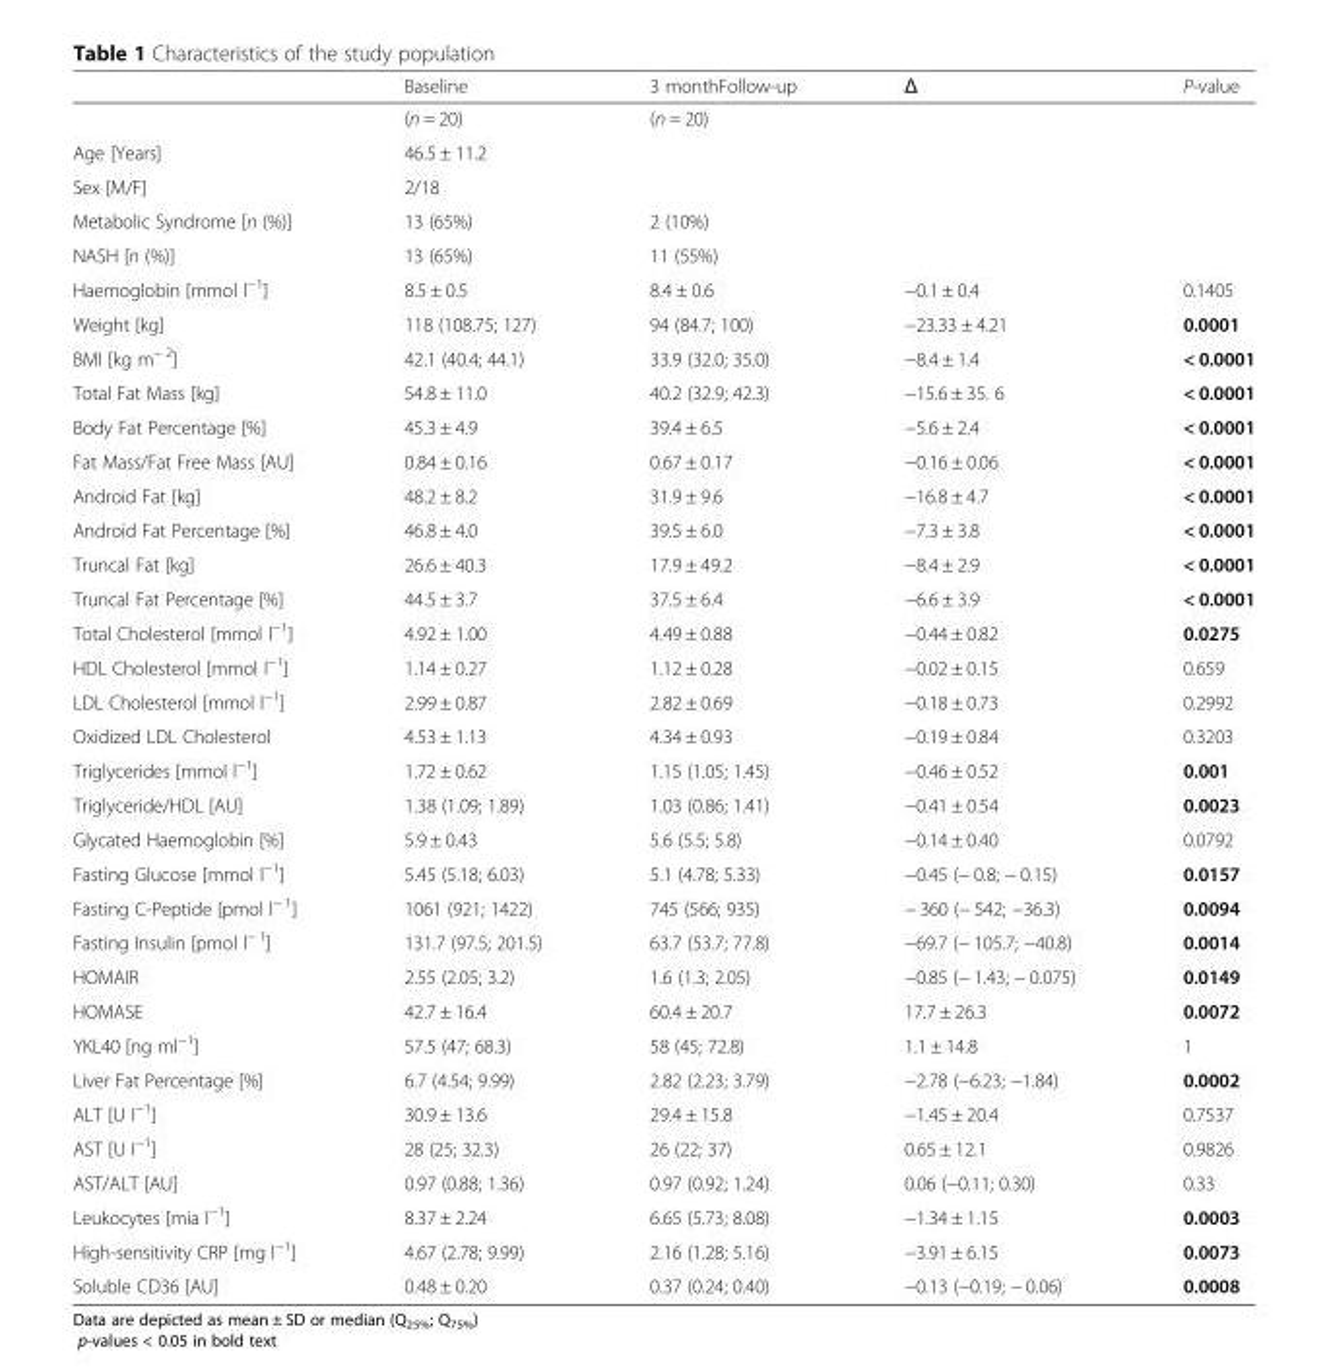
<table><thead><tr><td></td><td>Baseline</td><td>3 monthFollow-up</td><td>Δ</td><td>P-value</td></tr></thead><tbody><tr><td></td><td>(n = 20)</td><td>(n = 20)</td><td></td><td></td></tr><tr><td>Age [Years]</td><td>46.5 ± 11.2</td><td></td><td></td><td></td></tr><tr><td>Sex [M/F]</td><td>2/18</td><td></td><td></td><td></td></tr><tr><td>Metabolic Syndrome [n (%)]</td><td>13 (65%)</td><td>2 (10%)</td><td></td><td></td></tr><tr><td>NASH [n (%)]</td><td>13 (65%)</td><td>11 (55%)</td><td></td><td></td></tr><tr><td>Haemoglobin [mmol l<sup>−1</sup>]</td><td>8.5 ± 0.5</td><td>8.4 ± 0.6</td><td>−0.1 ± 0.4</td><td>0.1405</td></tr><tr><td>Weight [kg]</td><td>118 (108.75; 127)</td><td>94 (84.7; 100)</td><td>−23.33 ± 4.21</td><td>0.0001</td></tr><tr><td>BMI [kg m<sup>− 2</sup>]</td><td>42.1 (40.4; 44.1)</td><td>33.9 (32.0; 35.0)</td><td>−8.4 ± 1.4</td><td>&lt; 0.0001</td></tr><tr><td>Total Fat Mass [kg]</td><td>54.8 ± 11.0</td><td>40.2 (32.9; 42.3)</td><td>−15.6 ± 35. 6</td><td>&lt; 0.0001</td></tr><tr><td>Body Fat Percentage [%]</td><td>45.3 ± 4.9</td><td>39.4 ± 6.5</td><td>−5.6 ± 2.4</td><td>&lt; 0.0001</td></tr><tr><td>Fat Mass/Fat Free Mass [AU]</td><td>0.84 ± 0.16</td><td>0.67 ± 0.17</td><td>−0.16 ± 0.06</td><td>&lt; 0.0001</td></tr><tr><td>Android Fat [kg]</td><td>48.2 ± 8.2</td><td>31.9 ± 9.6</td><td>−16.8 ± 4.7</td><td>&lt; 0.0001</td></tr><tr><td>Android Fat Percentage [%]</td><td>46.8 ± 4.0</td><td>39.5 ± 6.0</td><td>−7.3 ± 3.8</td><td>&lt; 0.0001</td></tr><tr><td>Truncal Fat [kg]</td><td>26.6 ± 40.3</td><td>17.9 ± 49.2</td><td>−8.4 ± 2.9</td><td>&lt; 0.0001</td></tr><tr><td>Truncal Fat Percentage [%]</td><td>44.5 ± 3.7</td><td>37.5 ± 6.4</td><td>−6.6 ± 3.9</td><td>&lt; 0.0001</td></tr><tr><td>Total Cholesterol [mmol l<sup>−1</sup>]</td><td>4.92 ± 1.00</td><td>4.49 ± 0.88</td><td>−0.44 ± 0.82</td><td>0.0275</td></tr><tr><td>HDL Cholesterol [mmol l<sup>−1</sup>]</td><td>1.14 ± 0.27</td><td>1.12 ± 0.28</td><td>−0.02 ± 0.15</td><td>0.659</td></tr><tr><td>LDL Cholesterol [mmol l<sup>−1</sup>]</td><td>2.99 ± 0.87</td><td>2.82 ± 0.69</td><td>−0.18 ± 0.73</td><td>0.2992</td></tr><tr><td>Oxidized LDL Cholesterol</td><td>4.53 ± 1.13</td><td>4.34 ± 0.93</td><td>−0.19 ± 0.84</td><td>0.3203</td></tr><tr><td>Triglycerides [mmol l<sup>−1</sup>]</td><td>1.72 ± 0.62</td><td>1.15 (1.05; 1.45)</td><td>−0.46 ± 0.52</td><td>0.001</td></tr><tr><td>Triglyceride/HDL [AU]</td><td>1.38 (1.09; 1.89)</td><td>1.03 (0.86; 1.41)</td><td>−0.41 ± 0.54</td><td>0.0023</td></tr><tr><td>Glycated Haemoglobin [%]</td><td>5.9 ± 0.43</td><td>5.6 (5.5; 5.8)</td><td>−0.14 ± 0.40</td><td>0.0792</td></tr><tr><td>Fasting Glucose [mmol l<sup>−1</sup>]</td><td>5.45 (5.18; 6.03)</td><td>5.1 (4.78; 5.33)</td><td>−0.45 (− 0.8; − 0.15)</td><td>0.0157</td></tr><tr><td>Fasting C-Peptide [pmol l<sup>− 1</sup>]</td><td>1061 (921; 1422)</td><td>745 (566; 935)</td><td>− 360 (− 542; −36.3)</td><td>0.0094</td></tr><tr><td>Fasting Insulin [pmol l<sup>− 1</sup>]</td><td>131.7 (97.5; 201.5)</td><td>63.7 (53.7; 77.8)</td><td>−69.7 (− 105.7; −40.8)</td><td>0.0014</td></tr><tr><td>HOMAIR</td><td>2.55 (2.05; 3.2)</td><td>1.6 (1.3; 2.05)</td><td>−0.85 (− 1.43; − 0.075)</td><td>0.0149</td></tr><tr><td>HOMASE</td><td>42.7 ± 16.4</td><td>60.4 ± 20.7</td><td>17.7 ± 26.3</td><td>0.0072</td></tr><tr><td>YKL40 [ng ml<sup>−1</sup>]</td><td>57.5 (47; 68.3)</td><td>58 (45; 72.8)</td><td>1.1 ± 14.8</td><td>1</td></tr><tr><td>Liver Fat Percentage [%]</td><td>6.7 (4.54; 9.99)</td><td>2.82 (2.23; 3.79)</td><td>−2.78 (−6.23; −1.84)</td><td>0.0002</td></tr><tr><td>ALT [U I<sup>−1</sup>]</td><td>30.9 ± 13.6</td><td>29.4 ± 15.8</td><td>−1.45 ± 20.4</td><td>0.7537</td></tr><tr><td>AST [U I<sup>−1</sup>]</td><td>28 (25; 32.3)</td><td>26 (22; 37)</td><td>0.65 ± 12.1</td><td>0.9826</td></tr><tr><td>AST/ALT [AU]</td><td>0.97 (0.88; 1.36)</td><td>0.97 (0.92; 1.24)</td><td>0.06 (−0.11; 0.30)</td><td>0.33</td></tr><tr><td>Leukocytes [mia l<sup>−1</sup>]</td><td>8.37 ± 2.24</td><td>6.65 (5.73; 8.08)</td><td>−1.34 ± 1.15</td><td>0.0003</td></tr><tr><td>High-sensitivity CRP [mg l<sup>−1</sup>]</td><td>4.67 (2.78; 9.99)</td><td>2.16 (1.28; 5.16)</td><td>−3.91 ± 6.15</td><td>0.0073</td></tr><tr><td>Soluble CD36 [AU]</td><td>0.48 ± 0.20</td><td>0.37 (0.24; 0.40)</td><td>−0.13 (−0.19; − 0.06)</td><td>0.0008</td></tr></tbody></table>